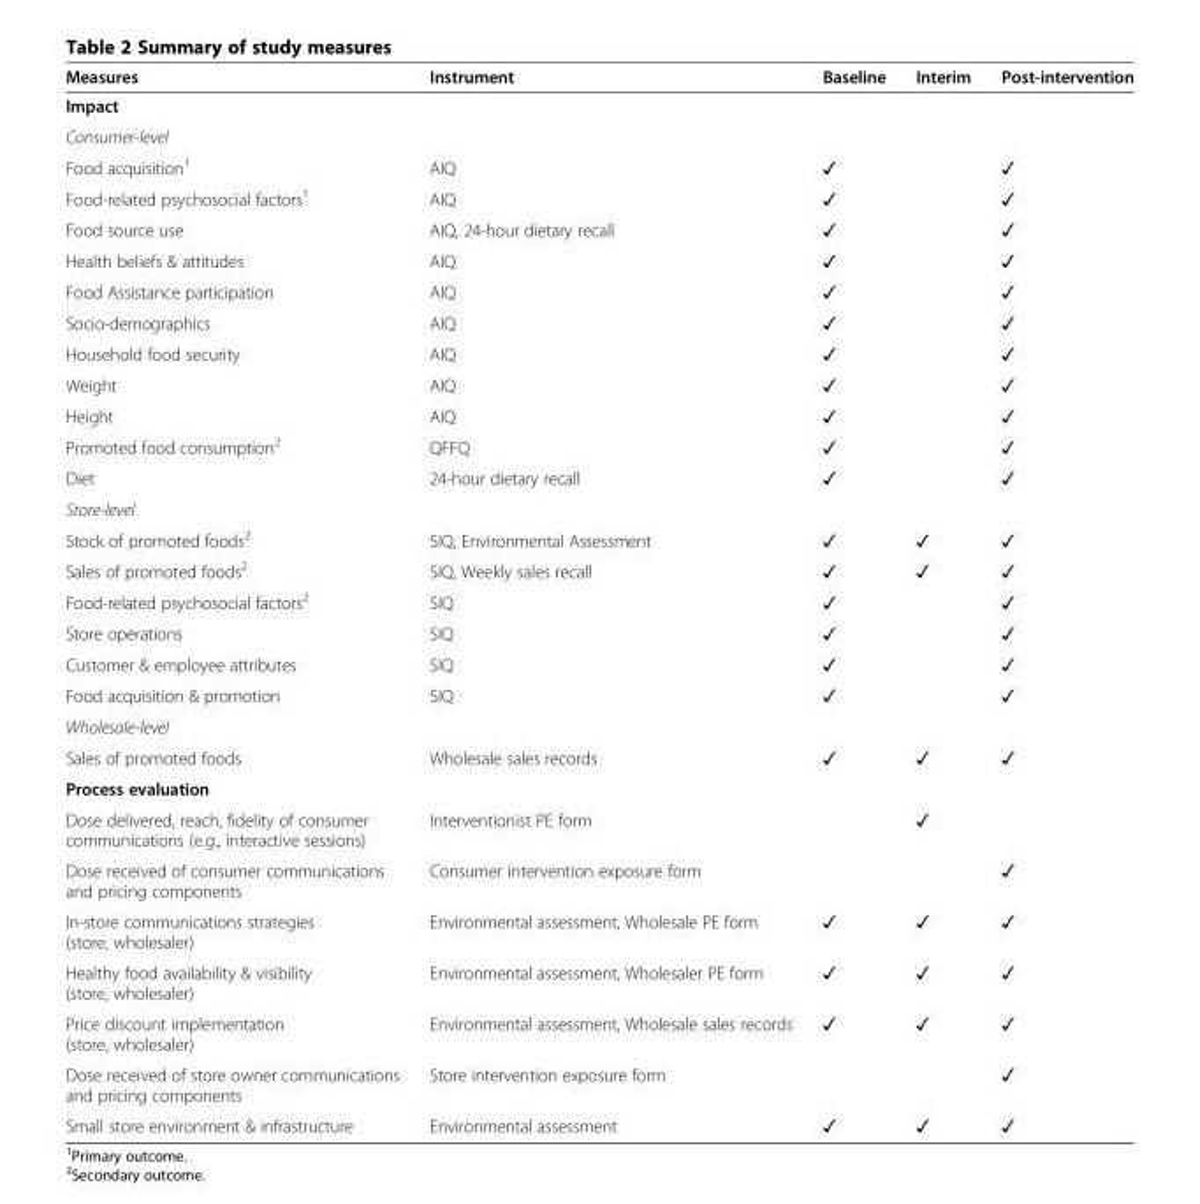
<table><thead><tr><td>Measures</td><td>Instrument</td><td>Baseline</td><td>Interim</td><td>Post-intervention</td></tr></thead><tbody><tr><td colspan="5">Impact</td></tr><tr><td colspan="5">Consumer-level</td></tr><tr><td>Food acquisition<sup>1</sup></td><td>AIQ</td><td>✓</td><td></td><td>✓</td></tr><tr><td>Food-related psychosocial factors<sup>1</sup></td><td>AIQ</td><td>✓</td><td></td><td>✓</td></tr><tr><td>Food source use</td><td>AIQ, 24-hour dietary recall</td><td>✓</td><td></td><td>✓</td></tr><tr><td>Health beliefs &amp; attitudes</td><td>AIQ</td><td>✓</td><td></td><td>✓</td></tr><tr><td>Food Assistance participation</td><td>AIQ</td><td>✓</td><td></td><td>✓</td></tr><tr><td>Socio-demographics</td><td>AIQ</td><td>✓</td><td></td><td>✓</td></tr><tr><td>Household food security</td><td>AIQ</td><td>✓</td><td></td><td>✓</td></tr><tr><td>Weight</td><td>AIQ</td><td>✓</td><td></td><td>✓</td></tr><tr><td>Height</td><td>AIQ</td><td>✓</td><td></td><td>✓</td></tr><tr><td>Promoted food consumption<sup>2</sup></td><td>QFFQ</td><td>✓</td><td></td><td>✓</td></tr><tr><td>Diet</td><td>24-hour dietary recall</td><td>✓</td><td></td><td>✓</td></tr><tr><td colspan="5">Store-level</td></tr><tr><td>Stock of promoted foods<sup>2</sup></td><td>SIQ, Environmental Assessment</td><td>✓</td><td>✓</td><td>✓</td></tr><tr><td>Sales of promoted foods<sup>2</sup></td><td>SIQ, Weekly sales recall</td><td>✓</td><td>✓</td><td>✓</td></tr><tr><td>Food-related psychosocial factors<sup>2</sup></td><td>SIQ</td><td>✓</td><td></td><td>✓</td></tr><tr><td>Store operations</td><td>SIQ</td><td>✓</td><td></td><td>✓</td></tr><tr><td>Customer &amp; employee attributes</td><td>SIQ</td><td>✓</td><td></td><td>✓</td></tr><tr><td>Food acquisition &amp; promotion</td><td>SIQ</td><td>✓</td><td></td><td>✓</td></tr><tr><td colspan="5">Wholesale-level</td></tr><tr><td>Sales of promoted foods</td><td>Wholesale sales records</td><td>✓</td><td>✓</td><td>✓</td></tr><tr><td colspan="5">Process evaluation</td></tr><tr><td>Dose delivered, reach, fidelity of consumer communications (e.g., interactive sessions)</td><td>Interventionist PE form</td><td></td><td>✓</td><td></td></tr><tr><td>Dose received of consumer communications and pricing components</td><td>Consumer intervention exposure form</td><td></td><td></td><td>✓</td></tr><tr><td>In-store communications strategies (store, wholesaler)</td><td>Environmental assessment, Wholesale PE form</td><td>✓</td><td>✓</td><td>✓</td></tr><tr><td>Healthy food availability &amp; visibility (store, wholesaler)</td><td>Environmental assessment, Wholesaler PE form</td><td>✓</td><td>✓</td><td>✓</td></tr><tr><td>Price discount implementation (store, wholesaler)</td><td>Environmental assessment, Wholesale sales records</td><td>✓</td><td>✓</td><td>✓</td></tr><tr><td>Dose received of store owner communications and pricing components</td><td>Store intervention exposure form</td><td></td><td></td><td>✓</td></tr><tr><td>Small store environment &amp; infrastructure</td><td>Environmental assessment</td><td>✓</td><td>✓</td><td>✓</td></tr></tbody></table>